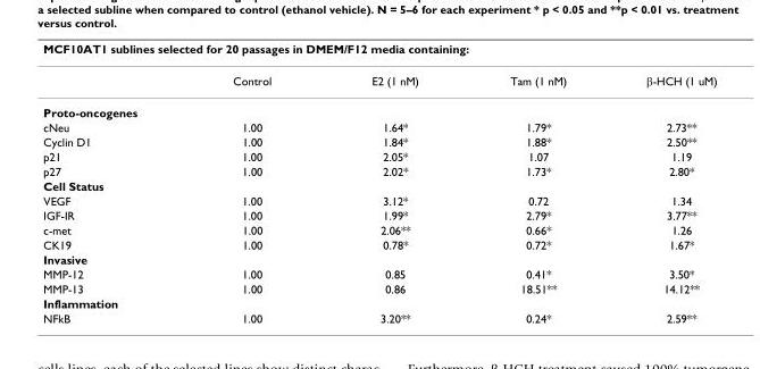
<table><thead><tr><td colspan="5">MCF10AT1 sublines selected for 20 passages in DMEM/F12 media containing:</td></tr><tr><td></td><td>Control</td><td>E2 (1 nM)</td><td>Tam (1 nM)</td><td>β-HCH (1 uM)</td></tr></thead><tbody><tr><td colspan="5">Proto-oncogenes</td></tr><tr><td>cNeu</td><td>1.00</td><td>1.64*</td><td>1.79*</td><td>2.73**</td></tr><tr><td>Cyclin D1</td><td>1.00</td><td>1.84*</td><td>1.88*</td><td>2.50**</td></tr><tr><td>p21</td><td>1.00</td><td>2.05*</td><td>1.07</td><td>1.19</td></tr><tr><td>p27</td><td>1.00</td><td>2.02*</td><td>1.73*</td><td>2.80*</td></tr><tr><td colspan="5">Cell Status</td></tr><tr><td>VEGF</td><td>1.00</td><td>3.12*</td><td>0.72</td><td>1.34</td></tr><tr><td>IGF-IR</td><td>1.00</td><td>1.99*</td><td>2.79*</td><td>3.77**</td></tr><tr><td>c-met</td><td>1.00</td><td>2.06**</td><td>0.66*</td><td>1.26</td></tr><tr><td>CK19</td><td>1.00</td><td>0.78*</td><td>0.72*</td><td>1.67*</td></tr><tr><td colspan="5">Invasive</td></tr><tr><td>MMP-12</td><td>1.00</td><td>0.85</td><td>0.41*</td><td>3.50*</td></tr><tr><td>MMP-13</td><td>1.00</td><td>0.86</td><td>18.51**</td><td>14.12**</td></tr><tr><td colspan="5">Inflammation</td></tr><tr><td>NFkB</td><td>1.00</td><td>3.20**</td><td>0.24*</td><td>2.59**</td></tr></tbody></table>